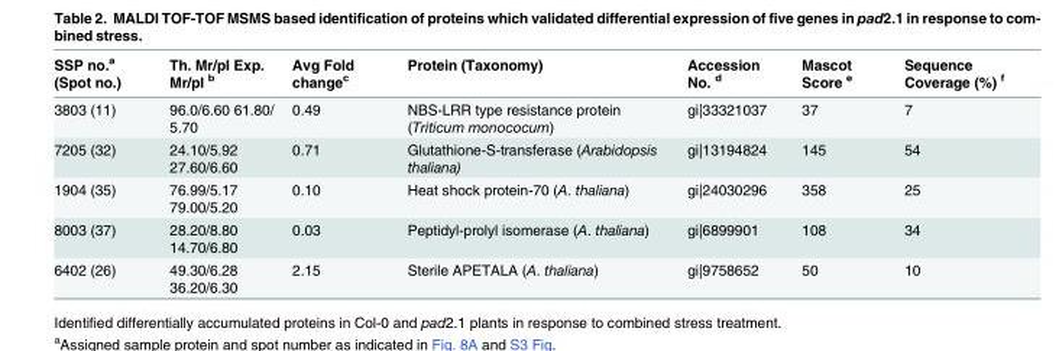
<table><thead><tr><td>SSP no.<sup>a</sup> (Spot no.)</td><td>Th. Mr/pI Exp. Mr/pI <sup>b</sup></td><td>Avg Fold change<sup>c</sup></td><td>Protein (Taxonomy)</td><td>Accession No. <sup>d</sup></td><td>Mascot Score <sup>e</sup></td><td>Sequence Coverage (%) <sup>f</sup></td></tr></thead><tbody><tr><td>3803 (11)</td><td>96.0/6.60 61.80/ 5.70</td><td>0.49</td><td>NBS-LRR type resistance protein (Triticum monococum)</td><td>gi|33321037</td><td>37</td><td>7</td></tr><tr><td>7205 (32)</td><td>24.10/5.92 27.60/6.60</td><td>0.71</td><td>Glutathione-S-transferase (Arabidopsis thaliana)</td><td>gi|13194824</td><td>145</td><td>54</td></tr><tr><td>1904 (35)</td><td>76.99/5.17 79.00/5.20</td><td>0.10</td><td>Heat shock protein-70 (A. thaliana)</td><td>gi|24030296</td><td>358</td><td>25</td></tr><tr><td>8003 (37)</td><td>28.20/8.80 14.70/6.80</td><td>0.03</td><td>Peptidyl-prolyl isomerase (A. thaliana)</td><td>gi|6899901</td><td>108</td><td>34</td></tr><tr><td>6402 (26)</td><td>49.30/6.28 36.20/6.30</td><td>2.15</td><td>Sterile APETALA (A. thaliana)</td><td>gi|9758652</td><td>50</td><td>10</td></tr></tbody></table>